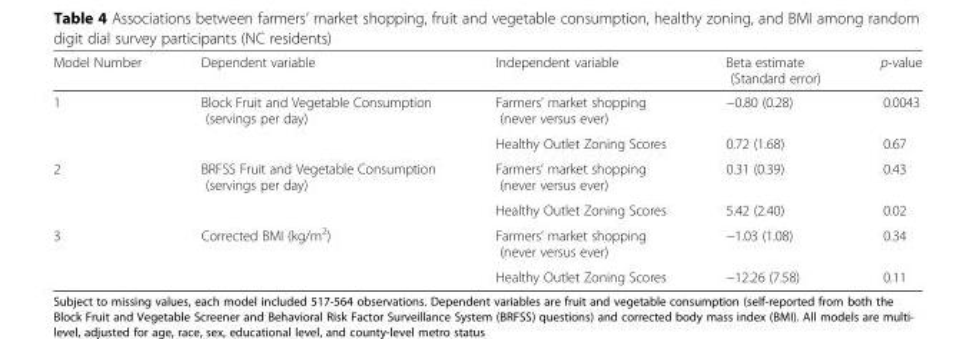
<table><thead><tr><td>Model Number</td><td>Dependent variable</td><td>Independent variable</td><td>Beta estimate (Standard error)</td><td>p-value</td></tr></thead><tbody><tr><td rowspan="2">1</td><td>Block Fruit and Vegetable Consumption (servings per day)</td><td>Farmers’ market shopping (never versus ever)</td><td>−0.80 (0.28)</td><td>0.0043</td></tr><tr><td></td><td>Healthy Outlet Zoning Scores</td><td>0.72 (1.68)</td><td>0.67</td></tr><tr><td rowspan="2">2</td><td>BRFSS Fruit and Vegetable Consumption (servings per day)</td><td>Farmers’ market shopping (never versus ever)</td><td>0.31 (0.39)</td><td>0.43</td></tr><tr><td></td><td>Healthy Outlet Zoning Scores</td><td>5.42 (2.40)</td><td>0.02</td></tr><tr><td rowspan="2">3</td><td>Corrected BMI (kg/m<sup>2</sup>)</td><td>Farmers’ market shopping (never versus ever)</td><td>−1.03 (1.08)</td><td>0.34</td></tr><tr><td></td><td>Healthy Outlet Zoning Scores</td><td>−12.26 (7.58)</td><td>0.11</td></tr></tbody></table>